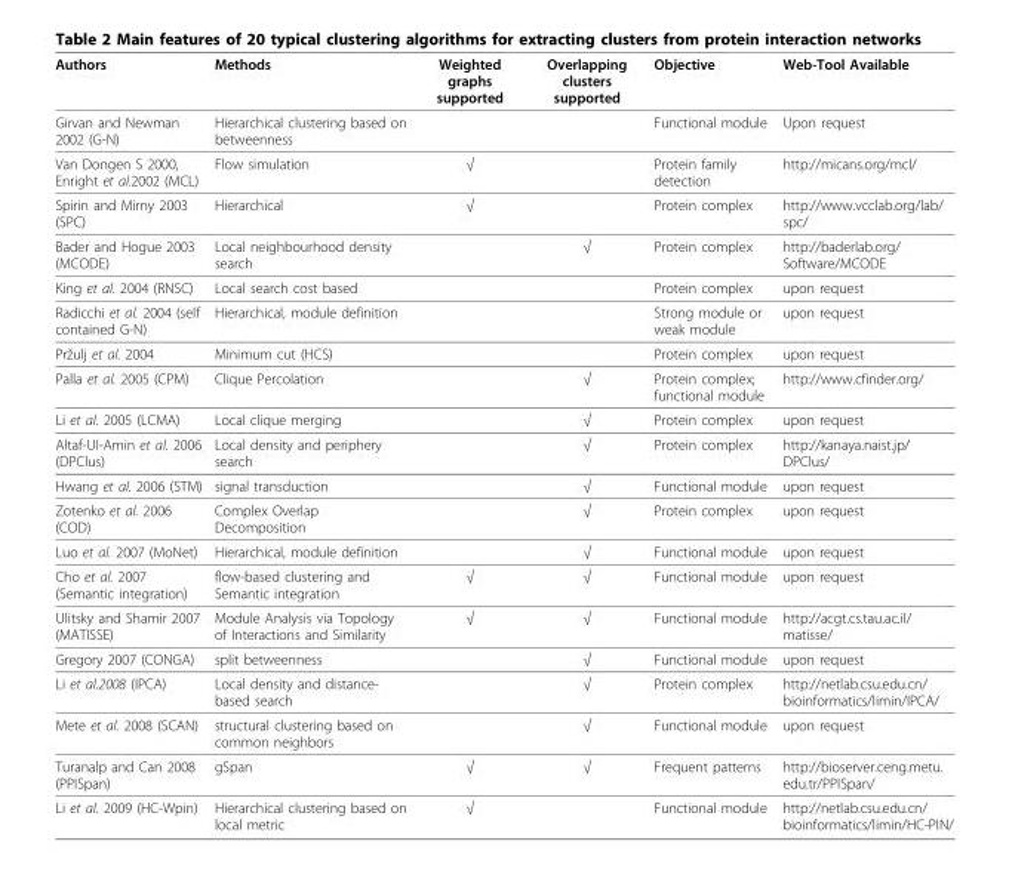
<table><thead><tr><td>Authors</td><td>Methods</td><td>Weighted graphs supported</td><td>Overlapping clusters supported</td><td>Objective</td><td>Web-Tool Available</td></tr></thead><tbody><tr><td>Girvan and Newman 2002 (G-N)</td><td>Hierarchical clustering based on betweenness</td><td></td><td></td><td>Functional module</td><td>Upon request</td></tr><tr><td>Van Dongen S 2000, Enright et al.2002 (MCL)</td><td>Flow simulation</td><td>√</td><td></td><td>Protein family detection</td><td>http://micans.org/mcl/</td></tr><tr><td>Spirin and Mirny 2003 (SPC)</td><td>Hierarchical</td><td>√</td><td></td><td>Protein complex</td><td>http://www.vcclab.org/lab/ spc/</td></tr><tr><td>Bader and Hogue 2003 (MCODE)</td><td>Local neighbourhood density search</td><td></td><td>√</td><td>Protein complex</td><td>http://baderlab.org/ Software/MCODE</td></tr><tr><td>King et al. 2004 (RNSC)</td><td>Local search cost based</td><td></td><td></td><td>Protein complex</td><td>upon request</td></tr><tr><td>Radicchi et al. 2004 (self contained G-N)</td><td>Hierarchical, module definition</td><td></td><td></td><td>Strong module or weak module</td><td>upon request</td></tr><tr><td>Pržulj et al. 2004</td><td>Minimum cut (HCS)</td><td></td><td></td><td>Protein complex</td><td>upon request</td></tr><tr><td>Palla et al. 2005 (CPM)</td><td>Clique Percolation</td><td></td><td>√</td><td>Protein complex; functional module</td><td>http://www.cfinder.org/</td></tr><tr><td>Li et al. 2005 (LCMA)</td><td>Local clique merging</td><td></td><td>√</td><td>Protein complex</td><td>upon request</td></tr><tr><td>Altaf-UI-Amin et al. 2006 (DPClus)</td><td>Local density and periphery search</td><td></td><td>√</td><td>Protein complex</td><td>http://kanaya.naist.jp/ DPClus/</td></tr><tr><td>Hwang et al. 2006 (STM)</td><td>signal transduction</td><td></td><td>√</td><td>Functional module</td><td>upon request</td></tr><tr><td>Zotenko et al. 2006 (COD)</td><td>Complex Overlap Decomposition</td><td></td><td>√</td><td>Protein complex</td><td>upon request</td></tr><tr><td>Luo et al. 2007 (MoNet)</td><td>Hierarchical, module definition</td><td></td><td>√</td><td>Functional module</td><td>upon request</td></tr><tr><td>Cho et al. 2007 (Semantic integration)</td><td>flow-based clustering and Semantic integration</td><td>√</td><td>√</td><td>Functional module</td><td>upon request</td></tr><tr><td>Ulitsky and Shamir 2007 (MATISSE)</td><td>Module Analysis via Topology of Interactions and Similarity</td><td>√</td><td>√</td><td>Functional module</td><td>http://acgt.cs.tau.ac.il/ matisse/</td></tr><tr><td>Gregory 2007 (CONGA)</td><td>split betweenness</td><td></td><td>√</td><td>Functional module</td><td>upon request</td></tr><tr><td>Li et al.2008 (IPCA)</td><td>Local density and distance- based search</td><td></td><td>√</td><td>Protein complex</td><td>http://netlab.csu.edu.cn/ bioinformatics/limin/IPCA/</td></tr><tr><td>Mete et al. 2008 (SCAN)</td><td>structural clustering based on common neighbors</td><td></td><td>√</td><td>Functional module</td><td>upon request</td></tr><tr><td>Turanalp and Can 2008 (PPISpan)</td><td>gSpan</td><td>√</td><td>√</td><td>Frequent patterns</td><td>http://bioserver.ceng.metu. edu.tr/PPISpan/</td></tr><tr><td>Li et al. 2009 (HC-Wpin)</td><td>Hierarchical clustering based on local metric</td><td>√</td><td></td><td>Functional module</td><td>http://netlab.csu.edu.cn/ bioinformatics/limin/HC-PIN/</td></tr></tbody></table>